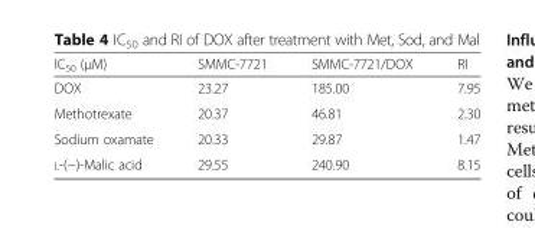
<table><thead><tr><td>IC<sub>50</sub> (μM)</td><td>SMMC-7721</td><td>SMMC-7721/DOX</td><td>RI</td></tr></thead><tbody><tr><td>DOX</td><td>23.27</td><td>185.00</td><td>7.95</td></tr><tr><td>Methotrexate</td><td>20.37</td><td>46.81</td><td>2.30</td></tr><tr><td>Sodium oxamate</td><td>20.33</td><td>29.87</td><td>1.47</td></tr><tr><td>L-(−)-Malic acid</td><td>29.55</td><td>240.90</td><td>8.15</td></tr></tbody></table>